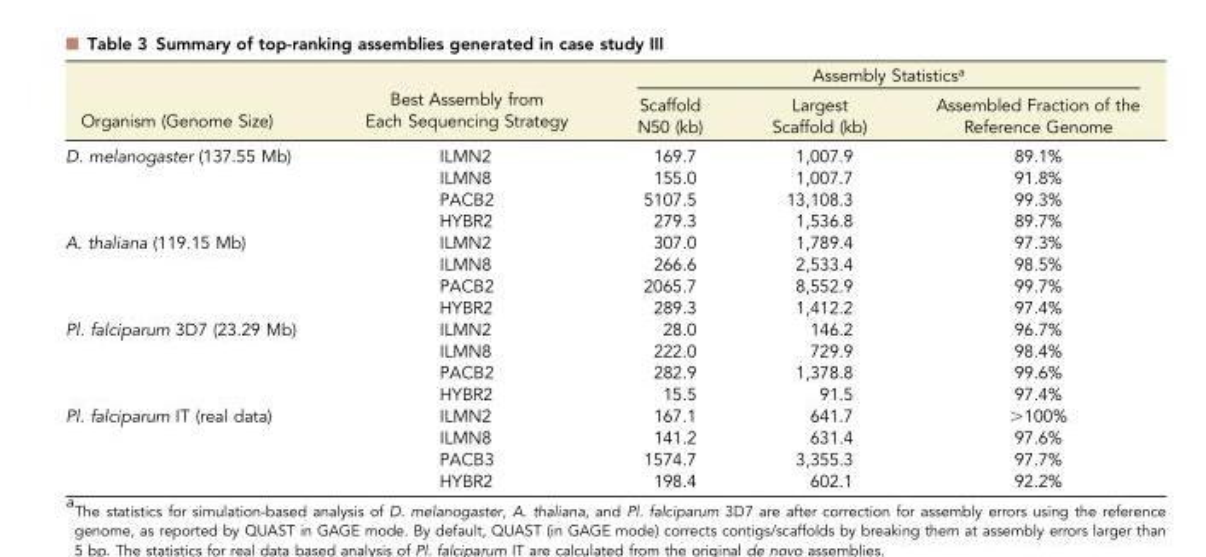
<table><thead><tr><td rowspan="2">Organism (Genome Size)</td><td rowspan="2">Best Assembly from Each Sequencing Strategy</td><td colspan="3">Assembly Statistics<sup>a</sup></td></tr><tr><td>Scaffold N50 (kb)</td><td>Largest Scaffold (kb)</td><td>Assembled Fraction of the Reference Genome</td></tr></thead><tbody><tr><td rowspan="4">D. melanogaster (137.55 Mb)</td><td>ILMN2</td><td>169.7</td><td>1,007.9</td><td>89.1%</td></tr><tr><td>ILMN8</td><td>155.0</td><td>1,007.7</td><td>91.8%</td></tr><tr><td>PACB2</td><td>5107.5</td><td>13,108.3</td><td>99.3%</td></tr><tr><td>HYBR2</td><td>279.3</td><td>1,536.8</td><td>89.7%</td></tr><tr><td rowspan="4">A. thaliana (119.15 Mb)</td><td>ILMN2</td><td>307.0</td><td>1,789.4</td><td>97.3%</td></tr><tr><td>ILMN8</td><td>266.6</td><td>2,533.4</td><td>98.5%</td></tr><tr><td>PACB2</td><td>2065.7</td><td>8,552.9</td><td>99.7%</td></tr><tr><td>HYBR2</td><td>289.3</td><td>1,412.2</td><td>97.4%</td></tr><tr><td rowspan="4">Pl. falciparum 3D7 (23.29 Mb)</td><td>ILMN2</td><td>28.0</td><td>146.2</td><td>96.7%</td></tr><tr><td>ILMN8</td><td>222.0</td><td>729.9</td><td>98.4%</td></tr><tr><td>PACB2</td><td>282.9</td><td>1,378.8</td><td>99.6%</td></tr><tr><td>HYBR2</td><td>15.5</td><td>91.5</td><td>97.4%</td></tr><tr><td rowspan="4">Pl. falciparum IT (real data)</td><td>ILMN2</td><td>167.1</td><td>641.7</td><td>&gt;100%</td></tr><tr><td>ILMN8</td><td>141.2</td><td>631.4</td><td>97.6%</td></tr><tr><td>PACB3</td><td>1574.7</td><td>3,355.3</td><td>97.7%</td></tr><tr><td>HYBR2</td><td>198.4</td><td>602.1</td><td>92.2%</td></tr></tbody></table>